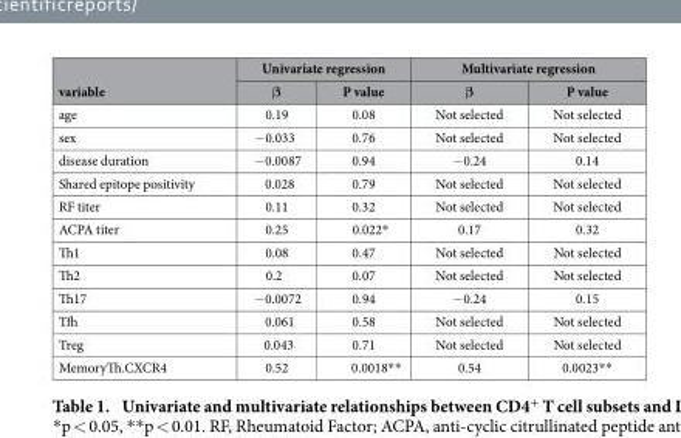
<table><thead><tr><td rowspan="2">variable</td><td colspan="2">Univariate regression</td><td colspan="2">Multivariate regression</td></tr><tr><td>β</td><td>P value</td><td>β</td><td>P value</td></tr></thead><tbody><tr><td>age</td><td>0.19</td><td>0.08</td><td>Not selected</td><td>Not selected</td></tr><tr><td>sex</td><td>− 0.033</td><td>0.76</td><td>Not selected</td><td>Not selected</td></tr><tr><td>disease duration</td><td>− 0.0087</td><td>0.94</td><td>− 0.24</td><td>0.14</td></tr><tr><td>Shared epitope positivity</td><td>0.028</td><td>0.79</td><td>Not selected</td><td>Not selected</td></tr><tr><td>RF titer</td><td>0.11</td><td>0.32</td><td>Not selected</td><td>Not selected</td></tr><tr><td>ACPA titer</td><td>0.25</td><td>0.022*</td><td>0.17</td><td>0.32</td></tr><tr><td>Th1</td><td>0.08</td><td>0.47</td><td>Not selected</td><td>Not selected</td></tr><tr><td>Th2</td><td>0.2</td><td>0.07</td><td>Not selected</td><td>Not selected</td></tr><tr><td>Th17</td><td>− 0.0072</td><td>0.94</td><td>− 0.24</td><td>0.15</td></tr><tr><td>Tfh</td><td>0.061</td><td>0.58</td><td>Not selected</td><td>Not selected</td></tr><tr><td>Treg</td><td>0.043</td><td>0.71</td><td>Not selected</td><td>Not selected</td></tr><tr><td>MemoryTh.CXCR4</td><td>0.52</td><td>0.0018* *</td><td>0.54</td><td>0.0023* *</td></tr></tbody></table>